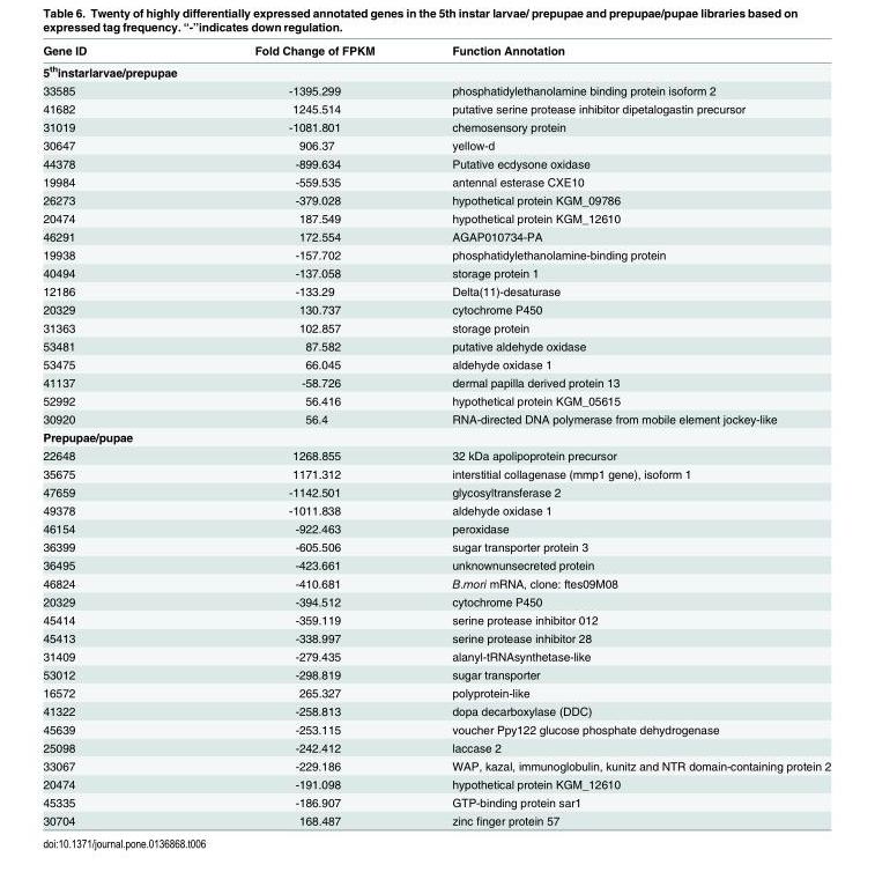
<table><thead><tr><td>Gene ID</td><td>Fold Change of FPKM</td><td>Function Annotation</td></tr></thead><tbody><tr><td colspan="3">5<sup>th</sup>instarlarvae/prepupae</td></tr><tr><td>33585</td><td>-1395.299</td><td>phosphatidylethanolamine binding protein isoform 2</td></tr><tr><td>41682</td><td>1245.514</td><td>putative serine protease inhibitor dipetalogastin precursor</td></tr><tr><td>31019</td><td>-1081.801</td><td>chemosensory protein</td></tr><tr><td>30647</td><td>906.37</td><td>yellow-d</td></tr><tr><td>44378</td><td>-899.634</td><td>Putative ecdysone oxidase</td></tr><tr><td>19984</td><td>-559.535</td><td>antennal esterase CXE10</td></tr><tr><td>26273</td><td>-379.028</td><td>hypothetical protein KGM_09786</td></tr><tr><td>20474</td><td>187.549</td><td>hypothetical protein KGM_12610</td></tr><tr><td>46291</td><td>172.554</td><td>AGAP010734-PA</td></tr><tr><td>19938</td><td>-157.702</td><td>phosphatidylethanolamine-binding protein</td></tr><tr><td>40494</td><td>-137.058</td><td>storage protein 1</td></tr><tr><td>12186</td><td>-133.29</td><td>Delta(11)-desaturase</td></tr><tr><td>20329</td><td>130.737</td><td>cytochrome P450</td></tr><tr><td>31363</td><td>102.857</td><td>storage protein</td></tr><tr><td>53481</td><td>87.582</td><td>putative aldehyde oxidase</td></tr><tr><td>53475</td><td>66.045</td><td>aldehyde oxidase 1</td></tr><tr><td>41137</td><td>-58.726</td><td>dermal papilla derived protein 13</td></tr><tr><td>52992</td><td>56.416</td><td>hypothetical protein KGM_05615</td></tr><tr><td>30920</td><td>56.4</td><td>RNA-directed DNA polymerase from mobile element jockey-like</td></tr><tr><td colspan="3">Prepupae/pupae</td></tr><tr><td>22648</td><td>1268.855</td><td>32 kDa apolipoprotein precursor</td></tr><tr><td>35675</td><td>1171.312</td><td>interstitial collagenase (mmp1 gene), isoform 1</td></tr><tr><td>47659</td><td>-1142.501</td><td>glycosyltransferase 2</td></tr><tr><td>49378</td><td>-1011.838</td><td>aldehyde oxidase 1</td></tr><tr><td>46154</td><td>-922.463</td><td>peroxidase</td></tr><tr><td>36399</td><td>-605.506</td><td>sugar transporter protein 3</td></tr><tr><td>36495</td><td>-423.661</td><td>unknownunsecreted protein</td></tr><tr><td>46824</td><td>-410.681</td><td>B.mori mRNA, clone: ftes09M08</td></tr><tr><td>20329</td><td>-394.512</td><td>cytochrome P450</td></tr><tr><td>45414</td><td>-359.119</td><td>serine protease inhibitor 012</td></tr><tr><td>45413</td><td>-338.997</td><td>serine protease inhibitor 28</td></tr><tr><td>31409</td><td>-279.435</td><td>alanyl-tRNAsynthetase-like</td></tr><tr><td>53012</td><td>-298.819</td><td>sugar transporter</td></tr><tr><td>16572</td><td>265.327</td><td>polyprotein-like</td></tr><tr><td>41322</td><td>-258.813</td><td>dopa decarboxylase (DDC)</td></tr><tr><td>45639</td><td>-253.115</td><td>voucher Ppy122 glucose phosphate dehydrogenase</td></tr><tr><td>25098</td><td>-242.412</td><td>laccase 2</td></tr><tr><td>33067</td><td>-229.186</td><td>WAP, kazal, immunoglobulin, kunitz and NTR domain-containing protein 2</td></tr><tr><td>20474</td><td>-191.098</td><td>hypothetical protein KGM_12610</td></tr><tr><td>45335</td><td>-186.907</td><td>GTP-binding protein sar1</td></tr><tr><td>30704</td><td>168.487</td><td>zinc finger protein 57</td></tr></tbody></table>